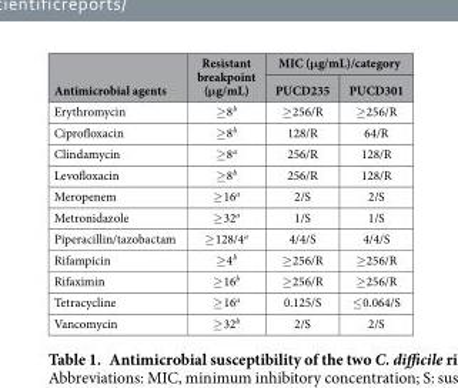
<table><thead><tr><td rowspan="2">Antimicrobial agents</td><td rowspan="2">Resistant breakpoint (μg/mL)</td><td colspan="2">MIC (μg/mL)/category</td></tr><tr><td>PUCD235</td><td>PUCD301</td></tr></thead><tbody><tr><td>Erythromycin</td><td>≥ 8<sup>b</sup></td><td>≥ 256/R</td><td>≥ 256/R</td></tr><tr><td>Ciprofloxacin</td><td>≥ 8<sup>b</sup></td><td>128/R</td><td>64/R</td></tr><tr><td>Clindamycin</td><td>≥ 8<sup>a</sup></td><td>256/R</td><td>128/R</td></tr><tr><td>Levofloxacin</td><td>≥ 8<sup>b</sup></td><td>256/R</td><td>128/R</td></tr><tr><td>Meropenem</td><td>≥ 16<sup>a</sup></td><td>2/S</td><td>2/S</td></tr><tr><td>Metronidazole</td><td>≥ 32<sup>a</sup></td><td>1/S</td><td>1/S</td></tr><tr><td>Piperacillin/tazobactam</td><td>≥ 128/4<sup>a</sup></td><td>4/4/S</td><td>4/4/S</td></tr><tr><td>Rifampicin</td><td>≥ 4<sup>b</sup></td><td>≥ 256/R</td><td>≥ 256/R</td></tr><tr><td>Rifaximin</td><td>≥ 16<sup>b</sup></td><td>≥ 256/R</td><td>≥ 256/R</td></tr><tr><td>Tetracycline</td><td>≥ 16<sup>a</sup></td><td>0.125/S</td><td>≤ 0.064/S</td></tr><tr><td>Vancomycin</td><td>≥ 32<sup>b</sup></td><td>2/S</td><td>2/S</td></tr></tbody></table>